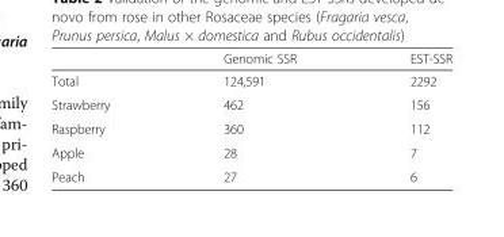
<table><thead><tr><td></td><td>Genomic SSR</td><td>EST-SSR</td></tr></thead><tbody><tr><td>Total</td><td>124,591</td><td>2292</td></tr><tr><td>Strawberry</td><td>462</td><td>156</td></tr><tr><td>Raspberry</td><td>360</td><td>112</td></tr><tr><td>Apple</td><td>28</td><td>7</td></tr><tr><td>Peach</td><td>27</td><td>6</td></tr></tbody></table>